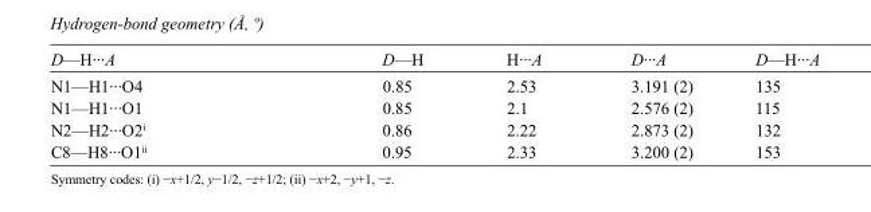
<table><tbody><tr><td>D—H···A</td><td>D—H</td><td>H···A</td><td>D···A</td><td>D—H···A</td></tr><tr><td>N1—H1···O4</td><td>0.85</td><td>2.53</td><td>3.191 (2)</td><td>135</td></tr><tr><td>N1—H1···O1</td><td>0.85</td><td>2.1</td><td>2.576 (2)</td><td>115</td></tr><tr><td>N2—H2···O2<sup>i</sup></td><td>0.86</td><td>2.22</td><td>2.873 (2)</td><td>132</td></tr><tr><td>C8—H8···O1<sup>ii</sup></td><td>0.95</td><td>2.33</td><td>3.200 (2)</td><td>153</td></tr></tbody></table>